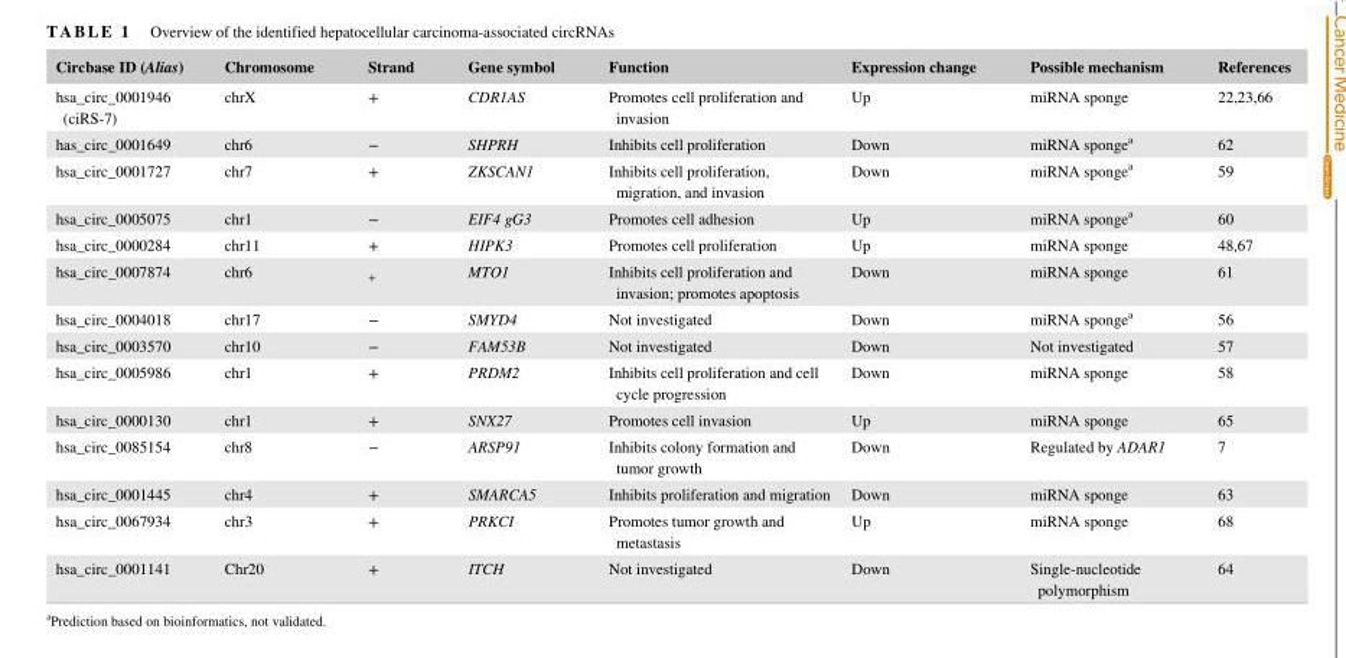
<table><thead><tr><td>Circbase ID (Alias)</td><td>Chromosome</td><td>Strand</td><td>Gene symbol</td><td>Function</td><td>Expression change</td><td>Possible mechanism</td><td>References</td></tr></thead><tbody><tr><td>hsa_circ_0001946 (ciRS- 7)</td><td>chrX</td><td>+</td><td>CDR1AS</td><td>Promotes cell proliferation and invasion</td><td>Up</td><td>miRNA sponge</td><td>22,23,66</td></tr><tr><td>has_circ_0001649</td><td>chr6</td><td>−</td><td>SHPRH</td><td>Inhibits cell proliferation</td><td>Down</td><td>miRNA sponge<sup>a</sup></td><td>62</td></tr><tr><td>hsa_circ_0001727</td><td>chr7</td><td>+</td><td>ZKSCAN1</td><td>Inhibits cell proliferation, migration, and invasion</td><td>Down</td><td>miRNA sponge<sup>a</sup></td><td>59</td></tr><tr><td>hsa_circ_0005075</td><td>chr1</td><td>−</td><td>EIF4 gG3</td><td>Promotes cell adhesion</td><td>Up</td><td>miRNA sponge<sup>a</sup></td><td>60</td></tr><tr><td>hsa_circ_0000284</td><td>chr11</td><td>+</td><td>HIPK3</td><td>Promotes cell proliferation</td><td>Up</td><td>miRNA sponge</td><td>48,67</td></tr><tr><td>hsa_circ_0007874</td><td>chr6</td><td><sub>+</sub></td><td>MTO1</td><td>Inhibits cell proliferation and invasion; promotes apoptosis</td><td>Down</td><td>miRNA sponge</td><td>61</td></tr><tr><td>hsa_circ_0004018</td><td>chr17</td><td>−</td><td>SMYD4</td><td>Not investigated</td><td>Down</td><td>miRNA sponge<sup>a</sup></td><td>56</td></tr><tr><td>hsa_circ_0003570</td><td>chr10</td><td>−</td><td>FAM53B</td><td>Not investigated</td><td>Down</td><td>Not investigated</td><td>57</td></tr><tr><td>hsa_circ_0005986</td><td>chr1</td><td>+</td><td>PRDM2</td><td>Inhibits cell proliferation and cell cycle progression</td><td>Down</td><td>miRNA sponge</td><td>58</td></tr><tr><td>hsa_circ_0000130</td><td>chr1</td><td>+</td><td>SNX27</td><td>Promotes cell invasion</td><td>Up</td><td>miRNA sponge</td><td>65</td></tr><tr><td>hsa_circ_0085154</td><td>chr8</td><td>−</td><td>ARSP91</td><td>Inhibits colony formation and tumor growth</td><td>Down</td><td>Regulated by ADAR1</td><td>7</td></tr><tr><td>hsa_circ_0001445</td><td>chr4</td><td>+</td><td>SMARCA5</td><td>Inhibits proliferation and migration</td><td>Down</td><td>miRNA sponge</td><td>63</td></tr><tr><td>hsa_circ_0067934</td><td>chr3</td><td>+</td><td>PRKCI</td><td>Promotes tumor growth and metastasis</td><td>Up</td><td>miRNA sponge</td><td>68</td></tr><tr><td>hsa_circ_0001141</td><td>Chr20</td><td>+</td><td>ITCH</td><td>Not investigated</td><td>Down</td><td>Single- nucleotide polymorphism</td><td>64</td></tr></tbody></table>